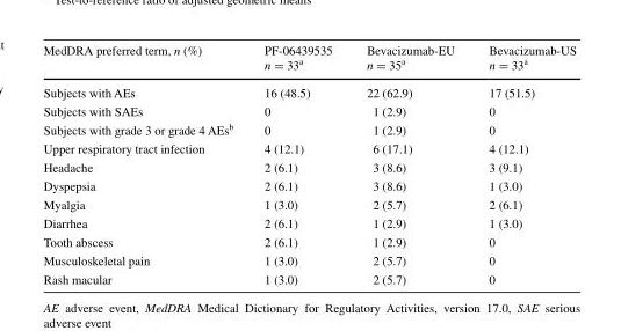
<table><thead><tr><td>MedDRA preferred term, n (%)</td><td>PF-06439535 n = 33<sup>a</sup></td><td>Bevacizumab-EU n = 35<sup>a</sup></td><td>Bevacizumab-US n = 33<sup>a</sup></td></tr></thead><tbody><tr><td>Subjects with AEs</td><td>16 (48.5)</td><td>22 (62.9)</td><td>17 (51.5)</td></tr><tr><td>Subjects with SAEs</td><td>0</td><td>1 (2.9)</td><td>0</td></tr><tr><td>Subjects with grade 3 or grade 4 AEs<sup>b</sup></td><td>0</td><td>1 (2.9)</td><td>0</td></tr><tr><td>Upper respiratory tract infection</td><td>4 (12.1)</td><td>6 (17.1)</td><td>4 (12.1)</td></tr><tr><td>Headache</td><td>2 (6.1)</td><td>3 (8.6)</td><td>3 (9.1)</td></tr><tr><td>Dyspepsia</td><td>2 (6.1)</td><td>3 (8.6)</td><td>1 (3.0)</td></tr><tr><td>Myalgia</td><td>1 (3.0)</td><td>2 (5.7)</td><td>2 (6.1)</td></tr><tr><td>Diarrhea</td><td>2 (6.1)</td><td>1 (2.9)</td><td>1 (3.0)</td></tr><tr><td>Tooth abscess</td><td>2 (6.1)</td><td>1 (2.9)</td><td>0</td></tr><tr><td>Musculoskeletal pain</td><td>1 (3.0)</td><td>2 (5.7)</td><td>0</td></tr><tr><td>Rash macular</td><td>1 (3.0)</td><td>2 (5.7)</td><td>0</td></tr></tbody></table>